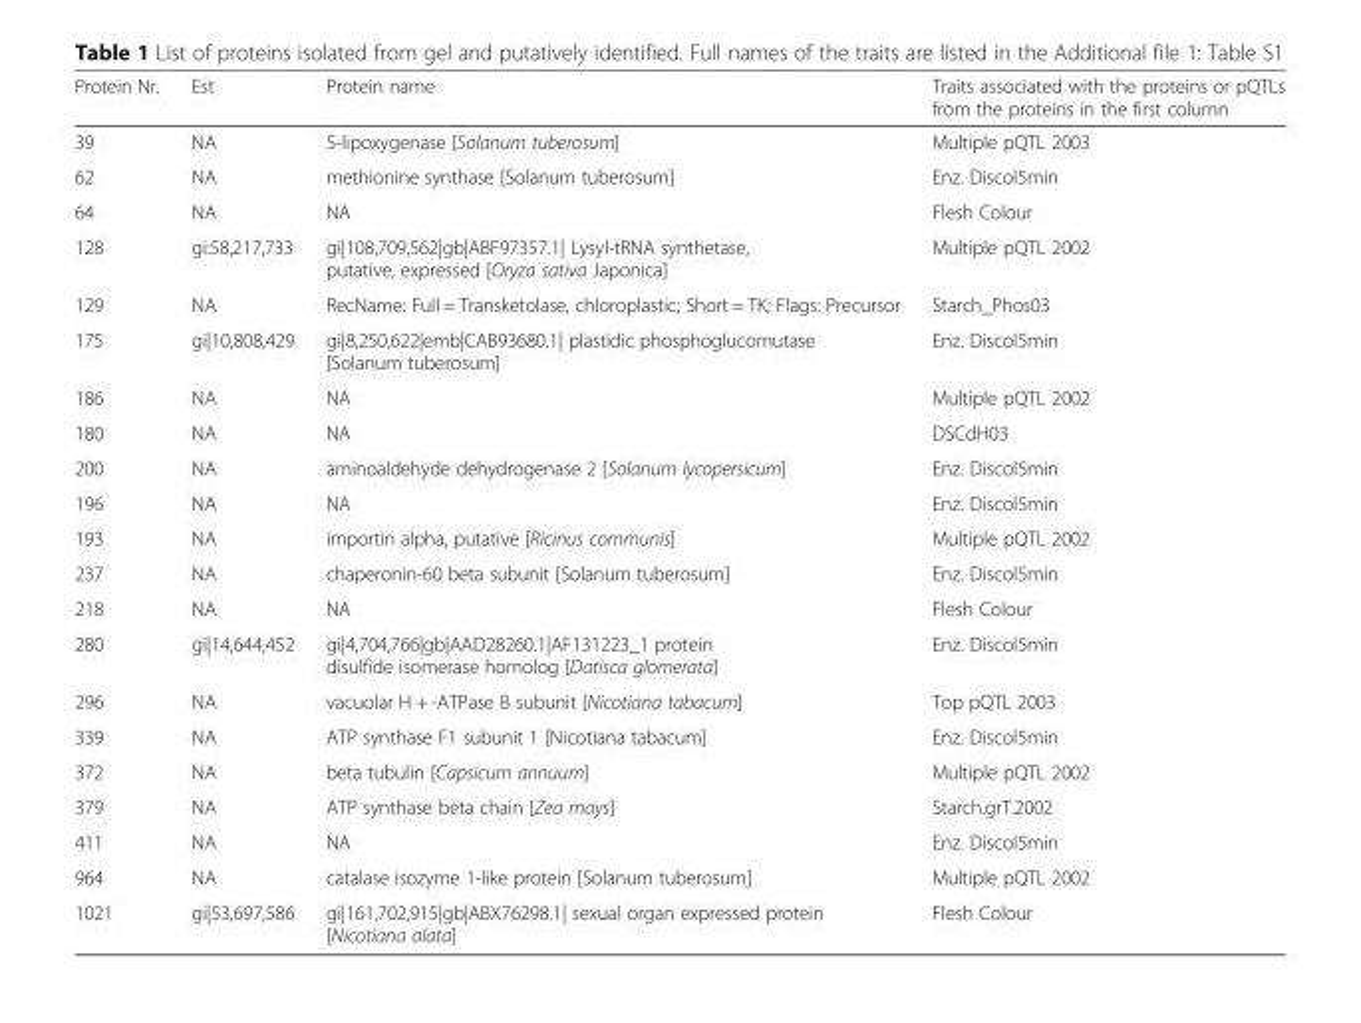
<table><thead><tr><td>Protein Nr.</td><td>Est</td><td>Protein name</td><td>Traits associated with the proteins or pQTLs from the proteins in the first column</td></tr></thead><tbody><tr><td>39</td><td>NA</td><td>5-lipoxygenase [Solanum tuberosum]</td><td>Multiple pQTL 2003</td></tr><tr><td>62</td><td>NA</td><td>methionine synthase [Solanum tuberosum]</td><td>Enz. Discol5min</td></tr><tr><td>64</td><td>NA</td><td>NA</td><td>Flesh Colour</td></tr><tr><td>128</td><td>gi:58,217,733</td><td>gi|108,709,562|gb|ABF97357.1| Lysyl-tRNA synthetase, putative, expressed [Oryza sativa Japonica]</td><td>Multiple pQTL 2002</td></tr><tr><td>129</td><td>NA</td><td>RecName: Full = Transketolase, chloroplastic; Short = TK; Flags: Precursor</td><td>Starch_Phos03</td></tr><tr><td>175</td><td>gi|10,808,429</td><td>gi|8,250,622|emb|CAB93680.1| plastidic phosphoglucomutase [Solanum tuberosum]</td><td>Enz. Discol5min</td></tr><tr><td>186</td><td>NA</td><td>NA</td><td>Multiple pQTL 2002</td></tr><tr><td>180</td><td>NA</td><td>NA</td><td>DSCdH03</td></tr><tr><td>200</td><td>NA</td><td>aminoaldehyde dehydrogenase 2 [Solanum lycopersicum]</td><td>Enz. Discol5min</td></tr><tr><td>196</td><td>NA</td><td>NA</td><td>Enz. Discol5min</td></tr><tr><td>193</td><td>NA</td><td>importin alpha, putative [Ricinus communis]</td><td>Multiple pQTL 2002</td></tr><tr><td>237</td><td>NA</td><td>chaperonin-60 beta subunit [Solanum tuberosum]</td><td>Enz. Discol5min</td></tr><tr><td>218</td><td>NA</td><td>NA</td><td>Flesh Colour</td></tr><tr><td>280</td><td>gi|14,644,452</td><td>gi|4,704,766|gb|AAD28260.1|AF131223_1 protein disulfide isomerase homolog [Datisca glomerata]</td><td>Enz. Discol5min</td></tr><tr><td>296</td><td>NA</td><td>vacuolar H + -ATPase B subunit [Nicotiana tabacum]</td><td>Top pQTL 2003</td></tr><tr><td>339</td><td>NA</td><td>ATP synthase F1 subunit 1 [Nicotiana tabacum]</td><td>Enz. Discol5min</td></tr><tr><td>372</td><td>NA</td><td>beta tubulin [Capsicum annuum]</td><td>Multiple pQTL 2002</td></tr><tr><td>379</td><td>NA</td><td>ATP synthase beta chain [Zea mays]</td><td>Starch.grT.2002</td></tr><tr><td>411</td><td>NA</td><td>NA</td><td>Enz. Discol5min</td></tr><tr><td>964</td><td>NA</td><td>catalase isozyme 1-like protein [Solanum tuberosum]</td><td>Multiple pQTL 2002</td></tr><tr><td>1021</td><td>gi|53,697,586</td><td>gi|161,702,915|gb|ABX76298.1| sexual organ expressed protein [Nicotiana alata]</td><td>Flesh Colour</td></tr></tbody></table>